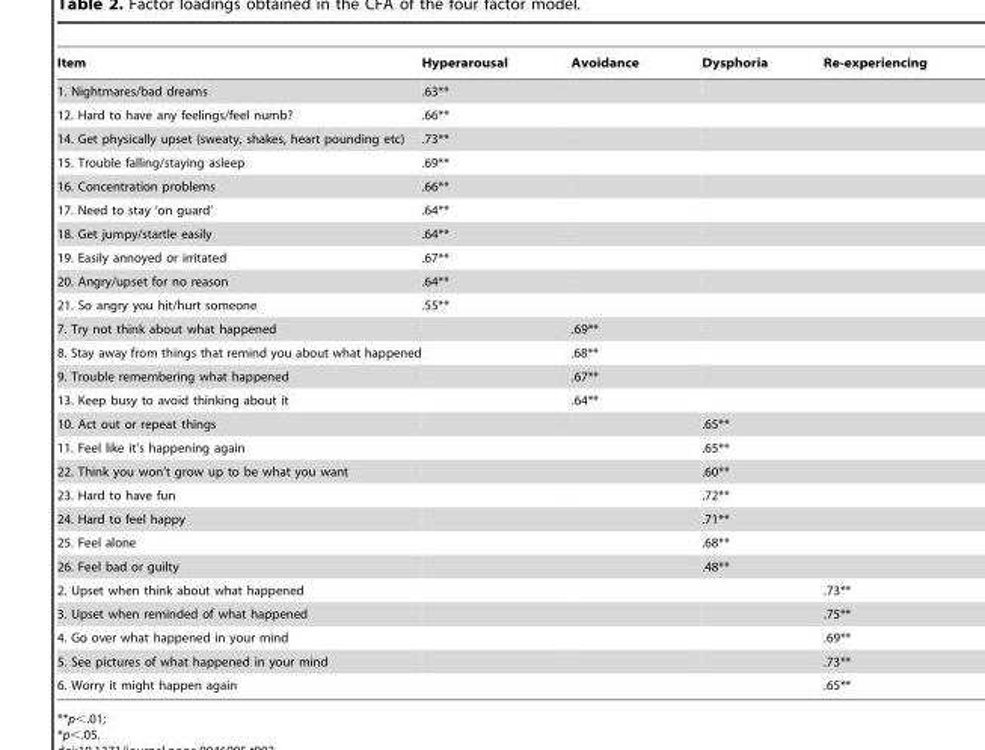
<table><thead><tr><td>Item</td><td>Hyperarousal</td><td>Avoidance</td><td>Dysphoria</td><td>Re-experiencing</td></tr></thead><tbody><tr><td>1. Nightmares/bad dreams</td><td>.63**</td><td></td><td></td><td></td></tr><tr><td>12. Hard to have any feelings/feel numb?</td><td>.66**</td><td></td><td></td><td></td></tr><tr><td>14. Get physically upset (sweaty, shakes, heart pounding etc)</td><td>.73**</td><td></td><td></td><td></td></tr><tr><td>15. Trouble falling/staying asleep</td><td>.69**</td><td></td><td></td><td></td></tr><tr><td>16. Concentration problems</td><td>.66**</td><td></td><td></td><td></td></tr><tr><td>17. Need to stay ‘on guard’</td><td>.64**</td><td></td><td></td><td></td></tr><tr><td>18. Get jumpy/startle easily</td><td>.64**</td><td></td><td></td><td></td></tr><tr><td>19. Easily annoyed or irritated</td><td>.67**</td><td></td><td></td><td></td></tr><tr><td>20. Angry/upset for no reason</td><td>.64**</td><td></td><td></td><td></td></tr><tr><td>21. So angry you hit/hurt someone</td><td>.55**</td><td></td><td></td><td></td></tr><tr><td>7. Try not think about what happened</td><td></td><td>.69**</td><td></td><td></td></tr><tr><td>8. Stay away from things that remind you about what happened</td><td></td><td>.68**</td><td></td><td></td></tr><tr><td>9. Trouble remembering what happened</td><td></td><td>.67**</td><td></td><td></td></tr><tr><td>13. Keep busy to avoid thinking about it</td><td></td><td>.64**</td><td></td><td></td></tr><tr><td>10. Act out or repeat things</td><td></td><td></td><td>.65**</td><td></td></tr><tr><td>11. Feel like it’s happening again</td><td></td><td></td><td>.65**</td><td></td></tr><tr><td>22. Think you won’t grow up to be what you want</td><td></td><td></td><td>.60**</td><td></td></tr><tr><td>23. Hard to have fun</td><td></td><td></td><td>.72**</td><td></td></tr><tr><td>24. Hard to feel happy</td><td></td><td></td><td>.71**</td><td></td></tr><tr><td>25. Feel alone</td><td></td><td></td><td>.68**</td><td></td></tr><tr><td>26. Feel bad or guilty</td><td></td><td></td><td>.48**</td><td></td></tr><tr><td>2. Upset when think about what happened</td><td></td><td></td><td></td><td>.73**</td></tr><tr><td>3. Upset when reminded of what happened</td><td></td><td></td><td></td><td>.75**</td></tr><tr><td>4. Go over what happened in your mind</td><td></td><td></td><td></td><td>.69**</td></tr><tr><td>5. See pictures of what happened in your mind</td><td></td><td></td><td></td><td>.73**</td></tr><tr><td>6. Worry it might happen again</td><td></td><td></td><td></td><td>.65**</td></tr></tbody></table>